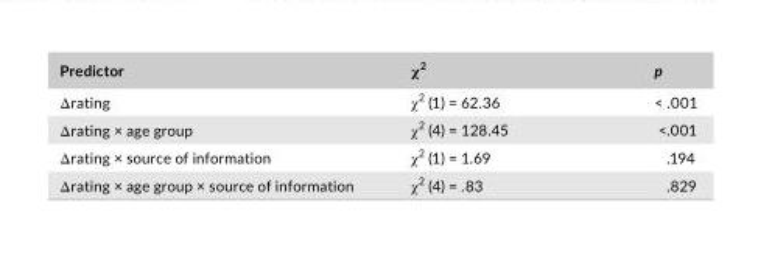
<table><thead><tr><td>Predictor</td><td>χ<sup>2</sup></td><td>p</td></tr></thead><tbody><tr><td>Δrating</td><td>χ<sup>2</sup> (1) = 62.36</td><td>&lt; .001</td></tr><tr><td>Δrating × age group</td><td>χ<sup>2</sup> (4) = 128.45</td><td>&lt;.001</td></tr><tr><td>Δrating × source of information</td><td>χ<sup>2</sup> (1) = 1.69</td><td>.194</td></tr><tr><td>Δrating × age group × source of information</td><td>χ<sup>2</sup> (4) = .83</td><td>.829</td></tr></tbody></table>